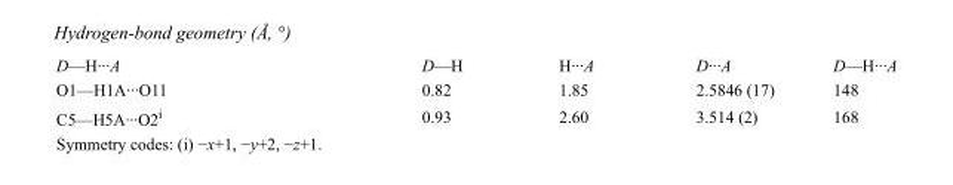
<table><tbody><tr><td>D—H···A</td><td>D—H</td><td>H···A</td><td>D···A</td><td>D—H···A</td></tr><tr><td>O1—H1A···O11</td><td>0.82</td><td>1.85</td><td>2.5846 (17)</td><td>148</td></tr><tr><td>C5—H5A···O2<sup>i</sup></td><td>0.93</td><td>2.60</td><td>3.514 (2)</td><td>168</td></tr></tbody></table>